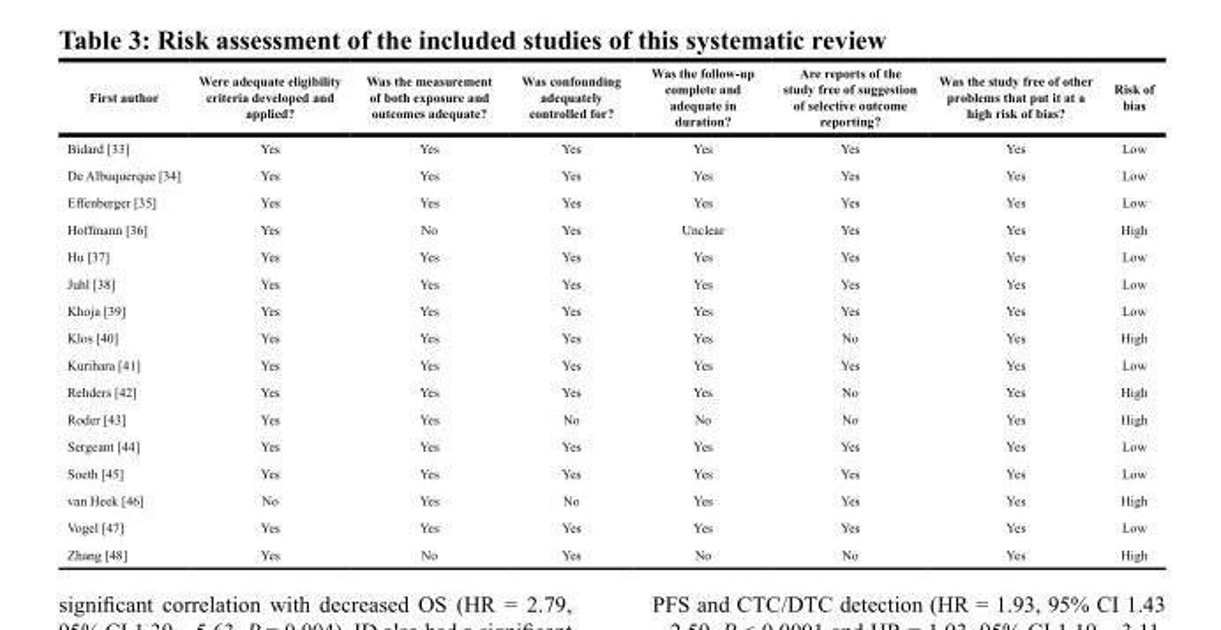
<table><thead><tr><td>First author</td><td>Were adequate eligibility criteria developed and applied?</td><td>Was the measurement of both exposure and outcomes adequate?</td><td>Was confounding adequately controlled for?</td><td>Was the follow-up complete and adequate in duration?</td><td>Are reports of the study free of suggestion of selective outcome reporting?</td><td>Was the study free of other problems that put it at a high risk of bias?</td><td>Risk of bias</td></tr></thead><tbody><tr><td>Bidard [33]</td><td>Yes</td><td>Yes</td><td>Yes</td><td>Yes</td><td>Yes</td><td>Yes</td><td>Low</td></tr><tr><td>De Albuquerque [34]</td><td>Yes</td><td>Yes</td><td>Yes</td><td>Yes</td><td>Yes</td><td>Yes</td><td>Low</td></tr><tr><td>Effenberger [35]</td><td>Yes</td><td>Yes</td><td>Yes</td><td>Yes</td><td>Yes</td><td>Yes</td><td>Low</td></tr><tr><td>Hoffmann [36]</td><td>Yes</td><td>No</td><td>Yes</td><td>Unclear</td><td>Yes</td><td>Yes</td><td>High</td></tr><tr><td>Hu [37]</td><td>Yes</td><td>Yes</td><td>Yes</td><td>Yes</td><td>Yes</td><td>Yes</td><td>Low</td></tr><tr><td>Juhl [38]</td><td>Yes</td><td>Yes</td><td>Yes</td><td>Yes</td><td>Yes</td><td>Yes</td><td>Low</td></tr><tr><td>Khoja [39]</td><td>Yes</td><td>Yes</td><td>Yes</td><td>Yes</td><td>Yes</td><td>Yes</td><td>Low</td></tr><tr><td>Klos [40]</td><td>Yes</td><td>Yes</td><td>Yes</td><td>Yes</td><td>No</td><td>Yes</td><td>High</td></tr><tr><td>Kurihara [41]</td><td>Yes</td><td>Yes</td><td>Yes</td><td>Yes</td><td>Yes</td><td>Yes</td><td>Low</td></tr><tr><td>Rehders [42]</td><td>Yes</td><td>Yes</td><td>Yes</td><td>Yes</td><td>No</td><td>Yes</td><td>High</td></tr><tr><td>Roder [43]</td><td>Yes</td><td>Yes</td><td>No</td><td>No</td><td>No</td><td>Yes</td><td>High</td></tr><tr><td>Sergeant [44]</td><td>Yes</td><td>Yes</td><td>Yes</td><td>Yes</td><td>Yes</td><td>Yes</td><td>Low</td></tr><tr><td>Soeth [45]</td><td>Yes</td><td>Yes</td><td>Yes</td><td>Yes</td><td>Yes</td><td>Yes</td><td>Low</td></tr><tr><td>van Heek [46]</td><td>No</td><td>Yes</td><td>No</td><td>Yes</td><td>Yes</td><td>Yes</td><td>High</td></tr><tr><td>Vogel [47]</td><td>Yes</td><td>Yes</td><td>Yes</td><td>Yes</td><td>Yes</td><td>Yes</td><td>Low</td></tr><tr><td>Zhang [48]</td><td>Yes</td><td>No</td><td>Yes</td><td>No</td><td>No</td><td>Yes</td><td>High</td></tr></tbody></table>